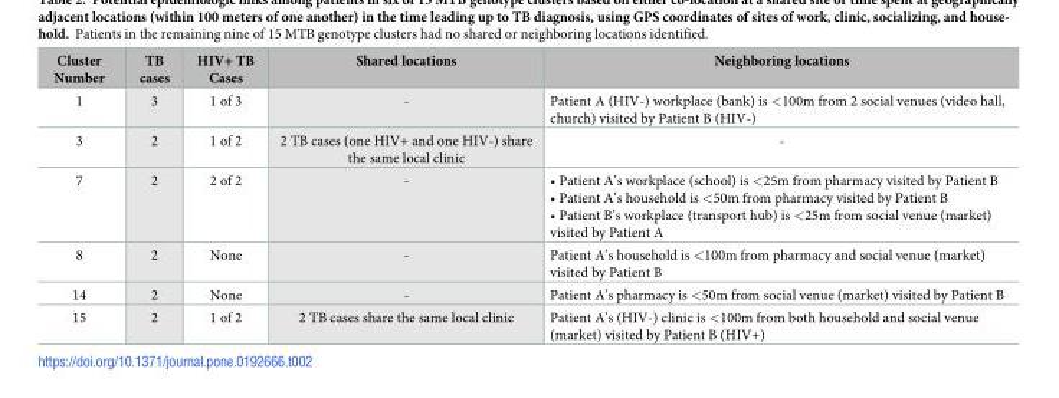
<table><thead><tr><td>Cluster Number</td><td>TB cases</td><td>HIV+ TB Cases</td><td>Shared locations</td><td>Neighboring locations</td></tr></thead><tbody><tr><td>1</td><td>3</td><td>1 of 3</td><td>-</td><td>Patient A (HIV-) workplace (bank) is &lt;100m from 2 social venues (video hall, church) visited by Patient B (HIV-)</td></tr><tr><td>3</td><td>2</td><td>1 of 2</td><td>2 TB cases (one HIV+ and one HIV-) share the same local clinic</td><td>-</td></tr><tr><td>7</td><td>2</td><td>2 of 2</td><td>-</td><td>• Patient A’s workplace (school) is &lt;25m from pharmacy visited by Patient B • Patient A’s household is &lt;50m from pharmacy visited by Patient B • Patient B’s workplace (transport hub) is &lt;25m from social venue (market) visited by Patient A</td></tr><tr><td>8</td><td>2</td><td>None</td><td>-</td><td>Patient A’s household is &lt;100m from pharmacy and social venue (market) visited by Patient B</td></tr><tr><td>14</td><td>2</td><td>None</td><td>-</td><td>Patient A’s pharmacy is &lt;50m from social venue (market) visited by Patient B</td></tr><tr><td>15</td><td>2</td><td>1 of 2</td><td>2 TB cases share the same local clinic</td><td>Patient A’s (HIV-) clinic is &lt;100m from both household and social venue (market) visited by Patient B (HIV+)</td></tr></tbody></table>